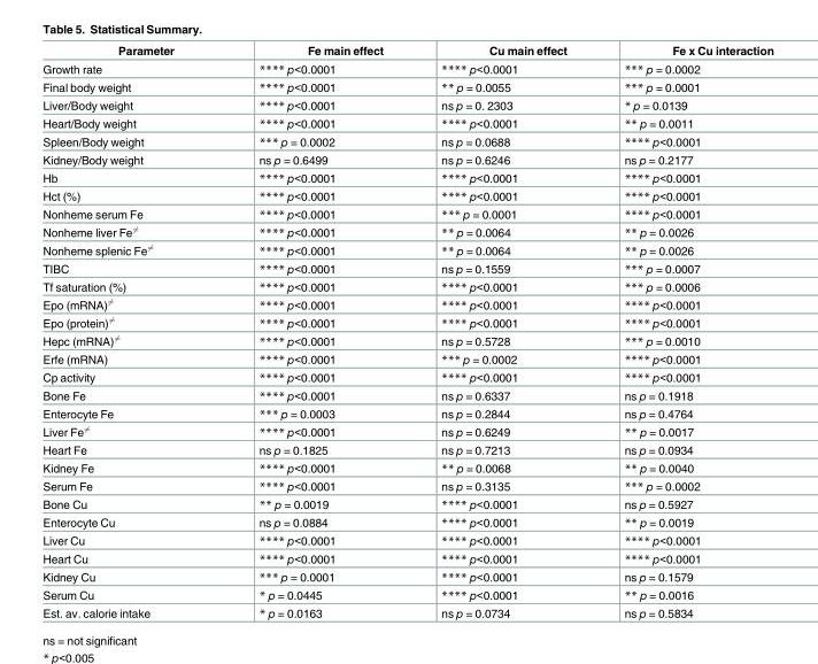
<table><thead><tr><td>Parameter</td><td>Fe main effect</td><td>Cu main effect</td><td>Fe x Cu interaction</td></tr></thead><tbody><tr><td>Growth rate</td><td>**** p&lt;0.0001</td><td>**** p&lt;0.0001</td><td>*** p = 0.0002</td></tr><tr><td>Final body weight</td><td>**** p&lt;0.0001</td><td>** p = 0.0055</td><td>*** p = 0.0001</td></tr><tr><td>Liver/Body weight</td><td>**** p&lt;0.0001</td><td>ns p = 0. 2303</td><td>* p = 0.0139</td></tr><tr><td>Heart/Body weight</td><td>**** p&lt;0.0001</td><td>**** p&lt;0.0001</td><td>** p = 0.0011</td></tr><tr><td>Spleen/Body weight</td><td>*** p = 0.0002</td><td>ns p = 0.0688</td><td>**** p&lt;0.0001</td></tr><tr><td>Kidney/Body weight</td><td>ns p = 0.6499</td><td>ns p = 0.6246</td><td>ns p = 0.2177</td></tr><tr><td>Hb</td><td>**** p&lt;0.0001</td><td>**** p&lt;0.0001</td><td>**** p&lt;0.0001</td></tr><tr><td>Hct (%)</td><td>**** p&lt;0.0001</td><td>**** p&lt;0.0001</td><td>**** p&lt;0.0001</td></tr><tr><td>Nonheme serum Fe</td><td>**** p&lt;0.0001</td><td>*** p = 0.0001</td><td>**** p&lt;0.0001</td></tr><tr><td>Nonheme liver Fe6¼</td><td>**** p&lt;0.0001</td><td>** p = 0.0064</td><td>** p = 0.0026</td></tr><tr><td>Nonheme splenic Fe6¼</td><td>**** p&lt;0.0001</td><td>** p = 0.0064</td><td>** p = 0.0026</td></tr><tr><td>TIBC</td><td>**** p&lt;0.0001</td><td>ns p = 0.1559</td><td>*** p = 0.0007</td></tr><tr><td>Tf saturation (%)</td><td>**** p&lt;0.0001</td><td>**** p&lt;0.0001</td><td>*** p = 0.0006</td></tr><tr><td>Epo (mRNA)6¼</td><td>**** p&lt;0.0001</td><td>**** p&lt;0.0001</td><td>**** p&lt;0.0001</td></tr><tr><td>Epo (protein)6¼</td><td>**** p&lt;0.0001</td><td>**** p&lt;0.0001</td><td>**** p&lt;0.0001</td></tr><tr><td>Hepc (mRNA)6¼</td><td>**** p&lt;0.0001</td><td>ns p = 0.5728</td><td>*** p = 0.0010</td></tr><tr><td>Erfe (mRNA)</td><td>**** p&lt;0.0001</td><td>*** p = 0.0002</td><td>**** p&lt;0.0001</td></tr><tr><td>Cp activity</td><td>**** p&lt;0.0001</td><td>**** p&lt;0.0001</td><td>**** p&lt;0.0001</td></tr><tr><td>Bone Fe</td><td>**** p&lt;0.0001</td><td>ns p = 0.6337</td><td>ns p = 0.1918</td></tr><tr><td>Enterocyte Fe</td><td>*** p = 0.0003</td><td>ns p = 0.2844</td><td>ns p = 0.4764</td></tr><tr><td>Liver Fe6¼</td><td>**** p&lt;0.0001</td><td>ns p = 0.6249</td><td>** p = 0.0017</td></tr><tr><td>Heart Fe</td><td>ns p = 0.1825</td><td>ns p = 0.7213</td><td>ns p = 0.0934</td></tr><tr><td>Kidney Fe</td><td>**** p&lt;0.0001</td><td>** p = 0.0068</td><td>** p = 0.0040</td></tr><tr><td>Serum Fe</td><td>**** p&lt;0.0001</td><td>ns p = 0.3135</td><td>*** p = 0.0002</td></tr><tr><td>Bone Cu</td><td>** p = 0.0019</td><td>**** p&lt;0.0001</td><td>ns p = 0.5927</td></tr><tr><td>Enterocyte Cu</td><td>ns p = 0.0884</td><td>**** p&lt;0.0001</td><td>** p = 0.0019</td></tr><tr><td>Liver Cu</td><td>**** p&lt;0.0001</td><td>**** p&lt;0.0001</td><td>**** p&lt;0.0001</td></tr><tr><td>Heart Cu</td><td>**** p&lt;0.0001</td><td>**** p&lt;0.0001</td><td>**** p&lt;0.0001</td></tr><tr><td>Kidney Cu</td><td>*** p = 0.0001</td><td>**** p&lt;0.0001</td><td>ns p = 0.1579</td></tr><tr><td>Serum Cu</td><td>* p = 0.0445</td><td>**** p&lt;0.0001</td><td>** p = 0.0016</td></tr><tr><td>Est. av. calorie intake</td><td>* p = 0.0163</td><td>ns p = 0.0734</td><td>ns p = 0.5834</td></tr></tbody></table>